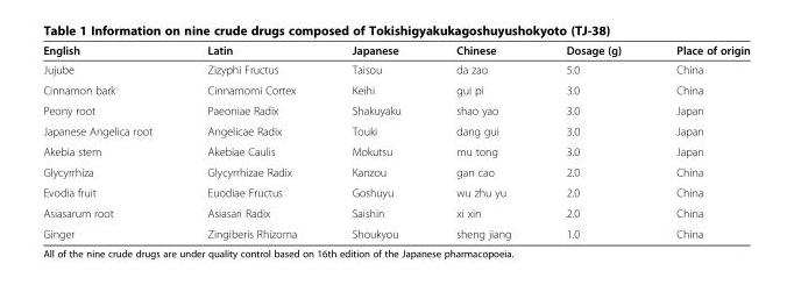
<table><thead><tr><td>English</td><td>Latin</td><td>Japanese</td><td>Chinese</td><td>Dosage (g)</td><td>Place of origin</td></tr></thead><tbody><tr><td>Jujube</td><td>Zizyphi Fructus</td><td>Taisou</td><td>da zao</td><td>5.0</td><td>China</td></tr><tr><td>Cinnamon bark</td><td>Cinnamomi Cortex</td><td>Keihi</td><td>gui pi</td><td>3.0</td><td>China</td></tr><tr><td>Peony root</td><td>Paeoniae Radix</td><td>Shakuyaku</td><td>shao yao</td><td>3.0</td><td>Japan</td></tr><tr><td>Japanese Angelica root</td><td>Angelicae Radix</td><td>Touki</td><td>dang gui</td><td>3.0</td><td>Japan</td></tr><tr><td>Akebia stem</td><td>Akebiae Caulis</td><td>Mokutsu</td><td>mu tong</td><td>3.0</td><td>Japan</td></tr><tr><td>Glycyrrhiza</td><td>Glycyrrhizae Radix</td><td>Kanzou</td><td>gan cao</td><td>2.0</td><td>China</td></tr><tr><td>Evodia fruit</td><td>Euodiae Fructus</td><td>Goshuyu</td><td>wu zhu yu</td><td>2.0</td><td>China</td></tr><tr><td>Asiasarum root</td><td>Asiasari Radix</td><td>Saishin</td><td>xi xin</td><td>2.0</td><td>China</td></tr><tr><td>Ginger</td><td>Zingiberis Rhizoma</td><td>Shoukyou</td><td>sheng jiang</td><td>1.0</td><td>China</td></tr></tbody></table>